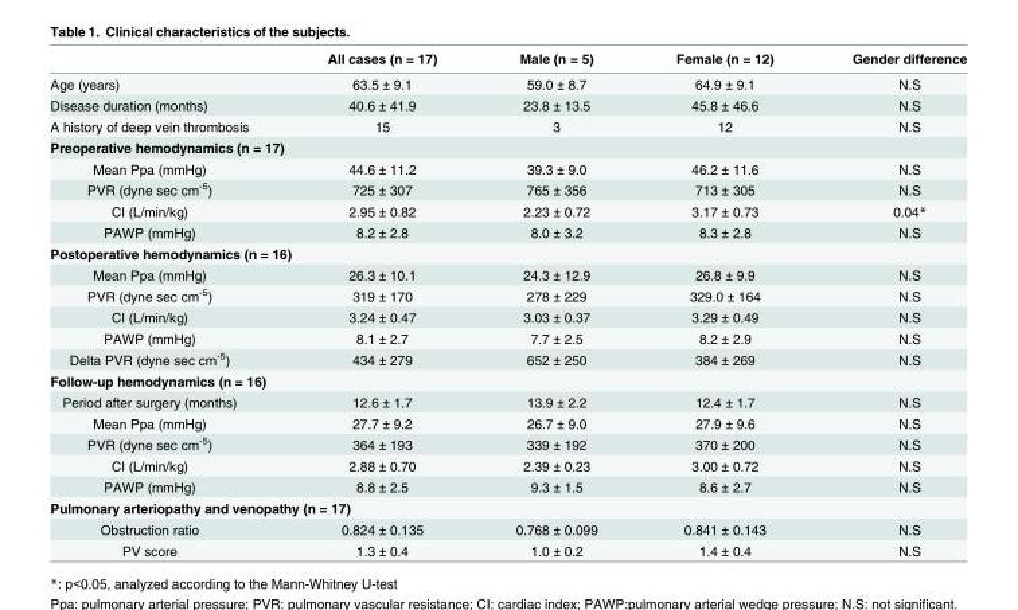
<table><thead><tr><td></td><td>All cases (n = 17)</td><td>Male (n = 5)</td><td>Female (n = 12)</td><td>Gender difference</td></tr></thead><tbody><tr><td>Age (years)</td><td>63.5 ± 9.1</td><td>59.0 ± 8.7</td><td>64.9 ± 9.1</td><td>N.S</td></tr><tr><td>Disease duration (months)</td><td>40.6 ± 41.9</td><td>23.8 ± 13.5</td><td>45.8 ± 46.6</td><td>N.S</td></tr><tr><td>A history of deep vein thrombosis</td><td>15</td><td>3</td><td>12</td><td>N.S</td></tr><tr><td colspan="5">Preoperative hemodynamics (n = 17)</td></tr><tr><td>Mean Ppa (mmHg)</td><td>44.6 ± 11.2</td><td>39.3 ± 9.0</td><td>46.2 ± 11.6</td><td>N.S</td></tr><tr><td>PVR (dyne sec cm<sup>-5</sup>)</td><td>725 ± 307</td><td>765 ± 356</td><td>713 ± 305</td><td>N.S</td></tr><tr><td>CI (L/min/kg)</td><td>2.95 ± 0.82</td><td>2.23 ± 0.72</td><td>3.17 ± 0.73</td><td>0.04*</td></tr><tr><td>PAWP (mmHg)</td><td>8.2 ± 2.8</td><td>8.0 ± 3.2</td><td>8.3 ± 2.8</td><td>N.S</td></tr><tr><td colspan="5">Postoperative hemodynamics (n = 16)</td></tr><tr><td>Mean Ppa (mmHg)</td><td>26.3 ± 10.1</td><td>24.3 ± 12.9</td><td>26.8 ± 9.9</td><td>N.S</td></tr><tr><td>PVR (dyne sec cm<sup>-5</sup>)</td><td>319 ± 170</td><td>278 ± 229</td><td>329.0 ± 164</td><td>N.S</td></tr><tr><td>CI (L/min/kg)</td><td>3.24 ± 0.47</td><td>3.03 ± 0.37</td><td>3.29 ± 0.49</td><td>N.S</td></tr><tr><td>PAWP (mmHg)</td><td>8.1 ± 2.7</td><td>7.7 ± 2.5</td><td>8.2 ± 2.9</td><td>N.S</td></tr><tr><td>Delta PVR (dyne sec cm<sup>-5</sup>)</td><td>434 ± 279</td><td>652 ± 250</td><td>384 ± 269</td><td>N.S</td></tr><tr><td colspan="5">Follow-up hemodynamics (n = 16)</td></tr><tr><td>Period after surgery (months)</td><td>12.6 ± 1.7</td><td>13.9 ± 2.2</td><td>12.4 ± 1.7</td><td>N.S</td></tr><tr><td>Mean Ppa (mmHg)</td><td>27.7 ± 9.2</td><td>26.7 ± 9.0</td><td>27.9 ± 9.6</td><td>N.S</td></tr><tr><td>PVR (dyne sec cm<sup>-5</sup>)</td><td>364 ± 193</td><td>339 ± 192</td><td>370 ± 200</td><td>N.S</td></tr><tr><td>CI (L/min/kg)</td><td>2.88 ± 0.70</td><td>2.39 ± 0.23</td><td>3.00 ± 0.72</td><td>N.S</td></tr><tr><td>PAWP (mmHg)</td><td>8.8 ± 2.5</td><td>9.3 ± 1.5</td><td>8.6 ± 2.7</td><td>N.S</td></tr><tr><td colspan="5">Pulmonary arteriopathy and venopathy (n = 17)</td></tr><tr><td>Obstruction ratio</td><td>0.824 ± 0.135</td><td>0.768 ± 0.099</td><td>0.841 ± 0.143</td><td>N.S</td></tr><tr><td>PV score</td><td>1.3 ± 0.4</td><td>1.0 ± 0.2</td><td>1.4 ± 0.4</td><td>N.S</td></tr></tbody></table>